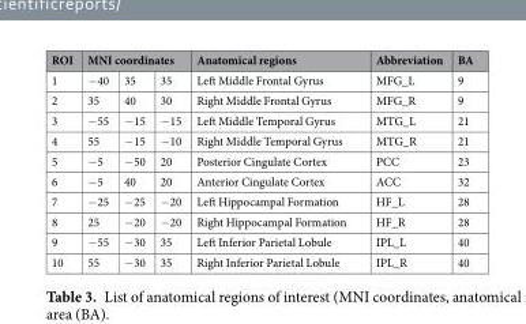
<table><thead><tr><td rowspan="2">ROI 1</td><td colspan="3">MNI coordinates</td><td rowspan="2">Anatomical regions Left Middle Frontal Gyrus</td><td rowspan="2">Abbreviation MFG_L</td><td rowspan="2">BA 9</td></tr><tr><td>−40</td><td>35</td><td>35</td></tr></thead><tbody><tr><td>2</td><td>35</td><td>40</td><td>30</td><td>Right Middle Frontal Gyrus</td><td>MFG_R</td><td>9</td></tr><tr><td>3</td><td>−55</td><td>−15</td><td>−15</td><td>Left Middle Temporal Gyrus</td><td>MTG_L</td><td>21</td></tr><tr><td>4</td><td>55</td><td>−15</td><td>−10</td><td>Right Middle Temporal Gyrus</td><td>MTG_R</td><td>21</td></tr><tr><td>5</td><td>−5</td><td>−50</td><td>20</td><td>Posterior Cingulate Cortex</td><td>PCC</td><td>23</td></tr><tr><td>6</td><td>−5</td><td>40</td><td>20</td><td>Anterior Cingulate Cortex</td><td>ACC</td><td>32</td></tr><tr><td>7</td><td>−25</td><td>−25</td><td>−20</td><td>Left Hippocampal Formation</td><td>HF_L</td><td>28</td></tr><tr><td>8</td><td>25</td><td>−20</td><td>−20</td><td>Right Hippocampal Formation</td><td>HF_R</td><td>28</td></tr><tr><td>9</td><td>−55</td><td>−30</td><td>35</td><td>Left Inferior Parietal Lobule</td><td>IPL_L</td><td>40</td></tr><tr><td>10</td><td>55</td><td>−30</td><td>35</td><td>Right Inferior Parietal Lobule</td><td>IPL_R</td><td>40</td></tr></tbody></table>